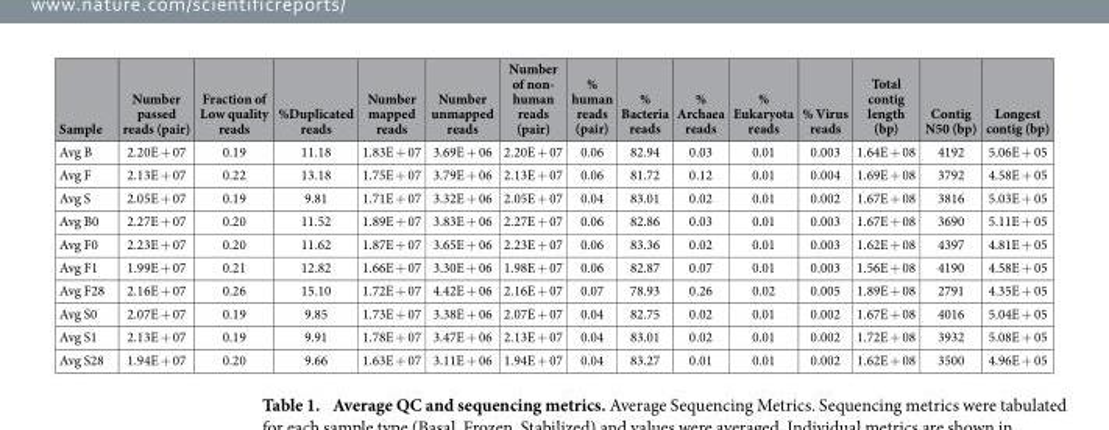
<table><thead><tr><td>Sample</td><td>Number passed reads (pair)</td><td>Fraction of Low quality reads</td><td>%Duplicated reads</td><td>Number mapped reads</td><td>Number unmapped reads</td><td>Number of non- human reads (pair)</td><td>% human reads (pair)</td><td>% Bacteria reads</td><td>% Archaea reads</td><td>% Eukaryota reads</td><td>% Virus reads</td><td>Total contig length (bp)</td><td>Contig N50 (bp)</td><td>Longest contig (bp)</td></tr></thead><tbody><tr><td>Avg B</td><td>2.20E + 07</td><td>0.19</td><td>11.18</td><td>1.83E + 07</td><td>3.69E + 06</td><td>2.20E + 07</td><td>0.06</td><td>82.94</td><td>0.03</td><td>0.01</td><td>0.003</td><td>1.64E + 08</td><td>4192</td><td>5.06E + 05</td></tr><tr><td>Avg F</td><td>2.13E + 07</td><td>0.22</td><td>13.18</td><td>1.75E + 07</td><td>3.79E + 06</td><td>2.13E + 07</td><td>0.06</td><td>81.72</td><td>0.12</td><td>0.01</td><td>0.004</td><td>1.69E + 08</td><td>3792</td><td>4.58E + 05</td></tr><tr><td>Avg S</td><td>2.05E + 07</td><td>0.19</td><td>9.81</td><td>1.71E + 07</td><td>3.32E + 06</td><td>2.05E + 07</td><td>0.04</td><td>83.01</td><td>0.02</td><td>0.01</td><td>0.002</td><td>1.67E + 08</td><td>3816</td><td>5.03E + 05</td></tr><tr><td>Avg B0</td><td>2.27E + 07</td><td>0.20</td><td>11.52</td><td>1.89E + 07</td><td>3.83E + 06</td><td>2.27E + 07</td><td>0.06</td><td>82.86</td><td>0.03</td><td>0.01</td><td>0.003</td><td>1.67E + 08</td><td>3690</td><td>5.11E + 05</td></tr><tr><td>Avg F0</td><td>2.23E + 07</td><td>0.20</td><td>11.62</td><td>1.87E + 07</td><td>3.65E + 06</td><td>2.23E + 07</td><td>0.06</td><td>83.36</td><td>0.02</td><td>0.01</td><td>0.003</td><td>1.62E + 08</td><td>4397</td><td>4.81E + 05</td></tr><tr><td>Avg F1</td><td>1.99E + 07</td><td>0.21</td><td>12.82</td><td>1.66E + 07</td><td>3.30E + 06</td><td>1.98E + 07</td><td>0.06</td><td>82.87</td><td>0.07</td><td>0.01</td><td>0.003</td><td>1.56E + 08</td><td>4190</td><td>4.58E + 05</td></tr><tr><td>Avg F28</td><td>2.16E + 07</td><td>0.26</td><td>15.10</td><td>1.72E + 07</td><td>4.42E + 06</td><td>2.16E + 07</td><td>0.07</td><td>78.93</td><td>0.26</td><td>0.02</td><td>0.005</td><td>1.89E + 08</td><td>2791</td><td>4.35E + 05</td></tr><tr><td>Avg S0</td><td>2.07E + 07</td><td>0.19</td><td>9.85</td><td>1.73E + 07</td><td>3.38E + 06</td><td>2.07E + 07</td><td>0.04</td><td>82.75</td><td>0.02</td><td>0.01</td><td>0.002</td><td>1.67E + 08</td><td>4016</td><td>5.04E + 05</td></tr><tr><td>Avg S1</td><td>2.13E + 07</td><td>0.19</td><td>9.91</td><td>1.78E + 07</td><td>3.47E + 06</td><td>2.13E + 07</td><td>0.04</td><td>83.01</td><td>0.02</td><td>0.01</td><td>0.002</td><td>1.72E + 08</td><td>3932</td><td>5.08E + 05</td></tr><tr><td>Avg S28</td><td>1.94E + 07</td><td>0.20</td><td>9.66</td><td>1.63E + 07</td><td>3.11E + 06</td><td>1.94E + 07</td><td>0.04</td><td>83.27</td><td>0.01</td><td>0.01</td><td>0.002</td><td>1.62E + 08</td><td>3500</td><td>4.96E + 05</td></tr></tbody></table>